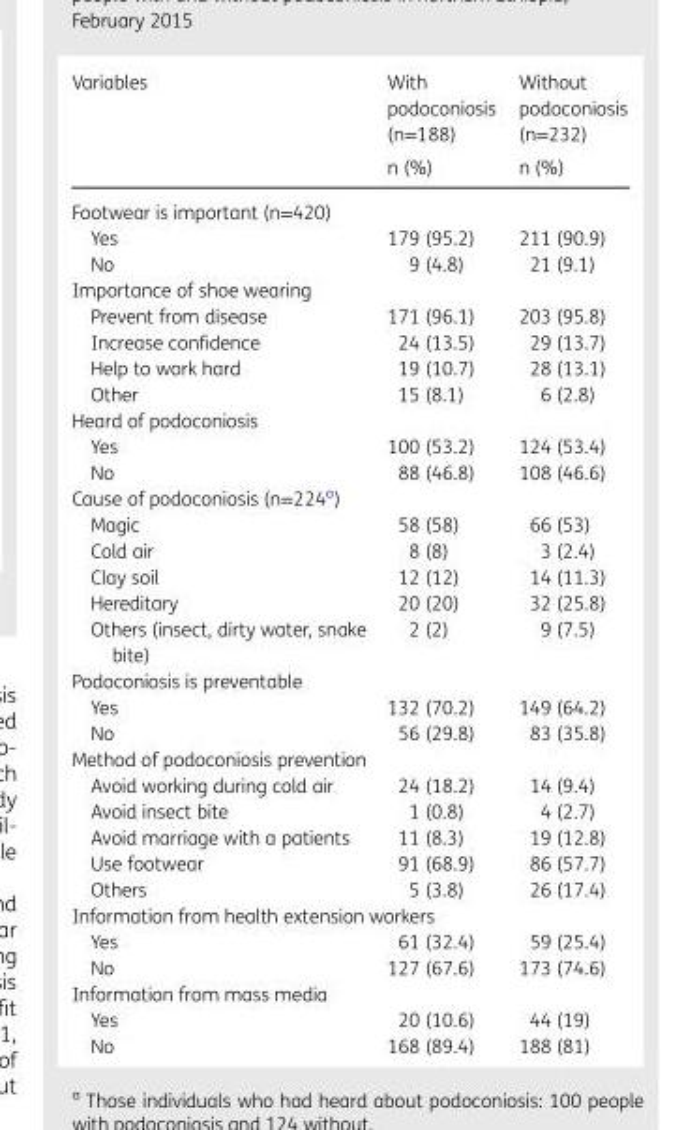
<table><thead><tr><td rowspan="2">Variables</td><td rowspan="2">With podoconiosis (n=188) n (%)</td><td rowspan="2">Without podoconiosis (n=232) n (%)</td></tr><tr></tr></thead><tbody><tr><td colspan="3">Footwear is important (n=420)</td></tr><tr><td>Yes</td><td>179 (95.2)</td><td>211 (90.9)</td></tr><tr><td>No</td><td>9 (4.8)</td><td>21 (9.1)</td></tr><tr><td colspan="3">Importance of shoe wearing</td></tr><tr><td>Prevent from disease</td><td>171 (96.1)</td><td>203 (95.8)</td></tr><tr><td>Increase confidence</td><td>24 (13.5)</td><td>29 (13.7)</td></tr><tr><td>Help to work hard</td><td>19 (10.7)</td><td>28 (13.1)</td></tr><tr><td>Other</td><td>15 (8.1)</td><td>6 (2.8)</td></tr><tr><td colspan="3">Heard of podoconiosis</td></tr><tr><td>Yes</td><td>100 (53.2)</td><td>124 (53.4)</td></tr><tr><td>No</td><td>88 (46.8)</td><td>108 (46.6)</td></tr><tr><td colspan="3">Cause of podoconiosis (n=224<sup>a</sup>)</td></tr><tr><td>Magic</td><td>58 (58)</td><td>66 (53)</td></tr><tr><td>Cold air</td><td>8 (8)</td><td>3 (2.4)</td></tr><tr><td>Clay soil</td><td>12 (12)</td><td>14 (11.3)</td></tr><tr><td>Hereditary</td><td>20 (20)</td><td>32 (25.8)</td></tr><tr><td>Others (insect, dirty water, snake bite)</td><td>2 (2)</td><td>9 (7.5)</td></tr><tr><td colspan="3">Podoconiosis is preventable</td></tr><tr><td>Yes</td><td>132 (70.2)</td><td>149 (64.2)</td></tr><tr><td>No</td><td>56 (29.8)</td><td>83 (35.8)</td></tr><tr><td colspan="3">Method of podoconiosis prevention</td></tr><tr><td>Avoid working during cold air</td><td>24 (18.2)</td><td>14 (9.4)</td></tr><tr><td>Avoid insect bite</td><td>1 (0.8)</td><td>4 (2.7)</td></tr><tr><td>Avoid marriage with a patients</td><td>11 (8.3)</td><td>19 (12.8)</td></tr><tr><td>Use footwear</td><td>91 (68.9)</td><td>86 (57.7)</td></tr><tr><td>Others</td><td>5 (3.8)</td><td>26 (17.4)</td></tr><tr><td colspan="3">Information from health extension workers</td></tr><tr><td>Yes</td><td>61 (32.4)</td><td>59 (25.4)</td></tr><tr><td>No</td><td>127 (67.6)</td><td>173 (74.6)</td></tr><tr><td colspan="3">Information from mass media</td></tr><tr><td>Yes</td><td>20 (10.6)</td><td>44 (19)</td></tr><tr><td>No</td><td>168 (89.4)</td><td>188 (81)</td></tr></tbody></table>